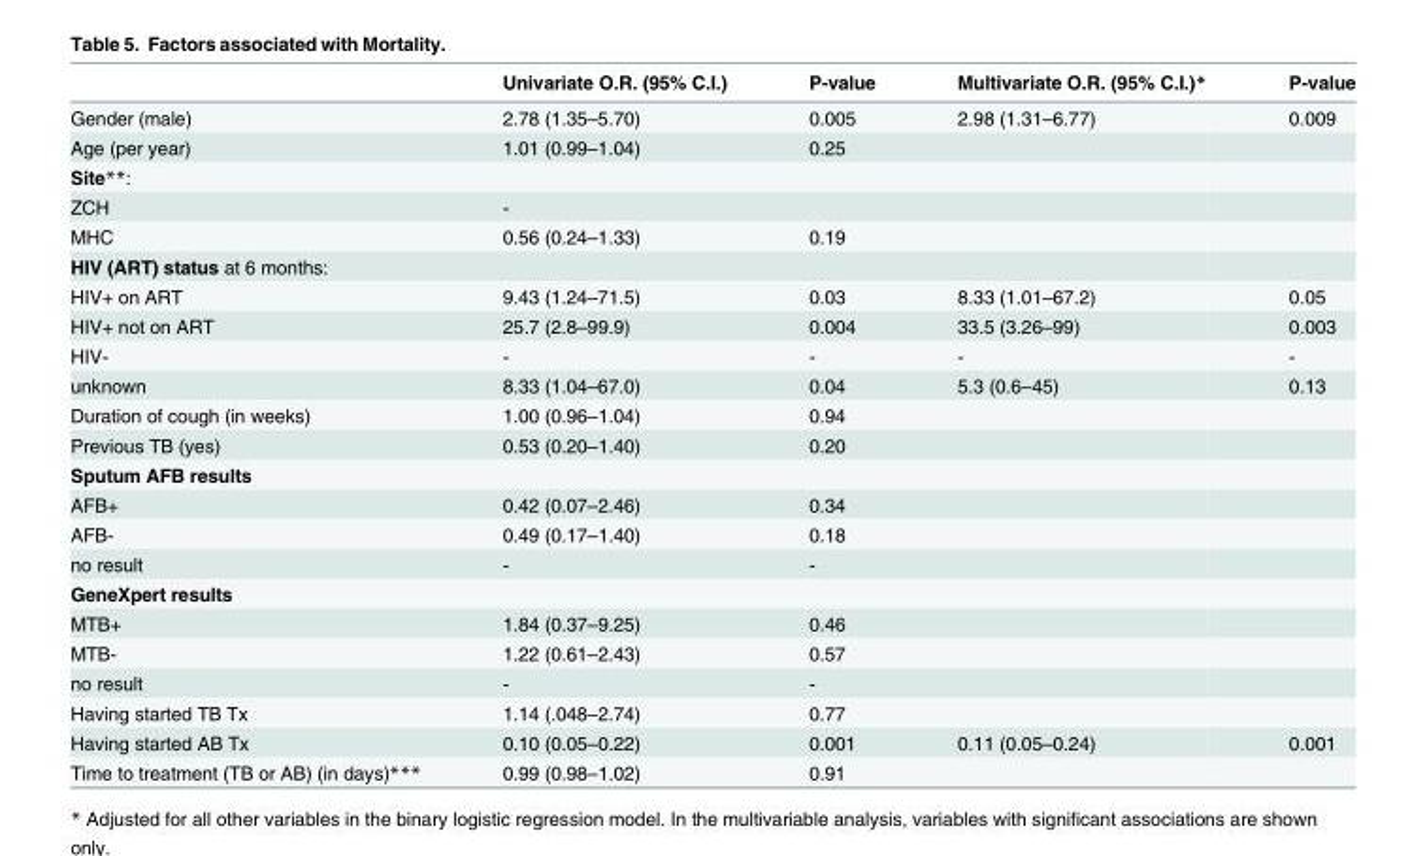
<table><thead><tr><td></td><td>Univariate O.R. (95% C.I.)</td><td>P-value</td><td>Multivariate O.R. (95% C.I.)*</td><td>P-value</td></tr></thead><tbody><tr><td>Gender (male)</td><td>2.78 (1.35–5.70)</td><td>0.005</td><td>2.98 (1.31–6.77)</td><td>0.009</td></tr><tr><td>Age (per year)</td><td>1.01 (0.99–1.04)</td><td>0.25</td><td></td><td></td></tr><tr><td colspan="5">Site**:</td></tr><tr><td>ZCH</td><td>-</td><td></td><td></td><td></td></tr><tr><td>MHC</td><td>0.56 (0.24–1.33)</td><td>0.19</td><td></td><td></td></tr><tr><td colspan="5">HIV (ART) status at 6 months:</td></tr><tr><td>HIV+ on ART</td><td>9.43 (1.24–71.5)</td><td>0.03</td><td>8.33 (1.01–67.2)</td><td>0.05</td></tr><tr><td>HIV+ not on ART</td><td>25.7 (2.8–99.9)</td><td>0.004</td><td>33.5 (3.26–99)</td><td>0.003</td></tr><tr><td>HIV-</td><td>-</td><td>-</td><td>-</td><td>-</td></tr><tr><td>unknown</td><td>8.33 (1.04–67.0)</td><td>0.04</td><td>5.3 (0.6–45)</td><td>0.13</td></tr><tr><td>Duration of cough (in weeks)</td><td>1.00 (0.96–1.04)</td><td>0.94</td><td></td><td></td></tr><tr><td>Previous TB (yes)</td><td>0.53 (0.20–1.40)</td><td>0.20</td><td></td><td></td></tr><tr><td colspan="5">Sputum AFB results</td></tr><tr><td>AFB+</td><td>0.42 (0.07–2.46)</td><td>0.34</td><td></td><td></td></tr><tr><td>AFB-</td><td>0.49 (0.17–1.40)</td><td>0.18</td><td></td><td></td></tr><tr><td>no result</td><td>-</td><td>-</td><td></td><td></td></tr><tr><td colspan="5">GeneXpert results</td></tr><tr><td>MTB+</td><td>1.84 (0.37–9.25)</td><td>0.46</td><td></td><td></td></tr><tr><td>MTB-</td><td>1.22 (0.61–2.43)</td><td>0.57</td><td></td><td></td></tr><tr><td>no result</td><td>-</td><td>-</td><td></td><td></td></tr><tr><td>Having started TB Tx</td><td>1.14 (.048–2.74)</td><td>0.77</td><td></td><td></td></tr><tr><td>Having started AB Tx</td><td>0.10 (0.05–0.22)</td><td>0.001</td><td>0.11 (0.05–0.24)</td><td>0.001</td></tr><tr><td>Time to treatment (TB or AB) (in days)***</td><td>0.99 (0.98–1.02)</td><td>0.91</td><td></td><td></td></tr></tbody></table>